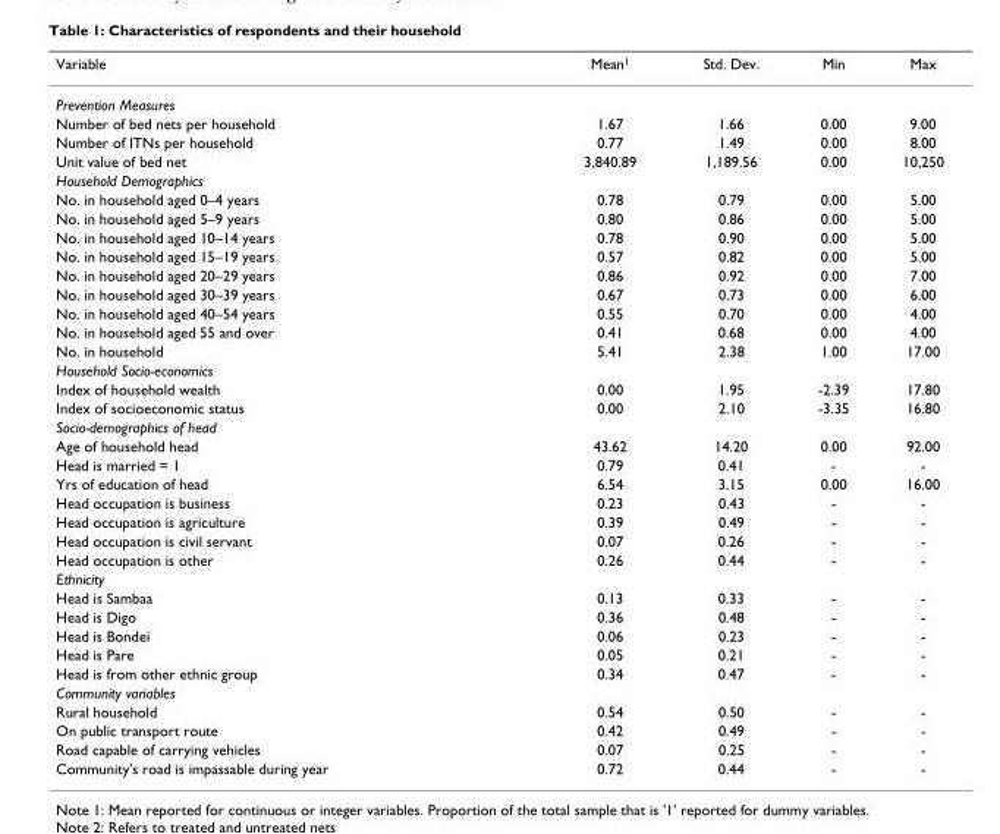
<table><thead><tr><td>Variable</td><td>Mean<sup>1</sup></td><td>Std. Dev.</td><td>Min</td><td>Max</td></tr></thead><tbody><tr><td colspan="5">Prevention Measures</td></tr><tr><td>Number of bed nets per household</td><td>1.67</td><td>1.66</td><td>0.00</td><td>9.00</td></tr><tr><td>Number of ITNs per household</td><td>0.77</td><td>1.49</td><td>0.00</td><td>8.00</td></tr><tr><td>Unit value of bed net</td><td>3,840.89</td><td>1,189.56</td><td>0.00</td><td>10,250</td></tr><tr><td colspan="5">Household Demographics</td></tr><tr><td>No. in household aged 0–4 years</td><td>0.78</td><td>0.79</td><td>0.00</td><td>5.00</td></tr><tr><td>No. in household aged 5–9 years</td><td>0.80</td><td>0.86</td><td>0.00</td><td>5.00</td></tr><tr><td>No. in household aged 10–14 years</td><td>0.78</td><td>0.90</td><td>0.00</td><td>5.00</td></tr><tr><td>No. in household aged 15–19 years</td><td>0.57</td><td>0.82</td><td>0.00</td><td>5.00</td></tr><tr><td>No. in household aged 20–29 years</td><td>0.86</td><td>0.92</td><td>0.00</td><td>7.00</td></tr><tr><td>No. in household aged 30–39 years</td><td>0.67</td><td>0.73</td><td>0.00</td><td>6.00</td></tr><tr><td>No. in household aged 40–54 years</td><td>0.55</td><td>0.70</td><td>0.00</td><td>4.00</td></tr><tr><td>No. in household aged 55 and over</td><td>0.41</td><td>0.68</td><td>0.00</td><td>4.00</td></tr><tr><td>No. in household</td><td>5.41</td><td>2.38</td><td>1.00</td><td>17.00</td></tr><tr><td colspan="5">Household Socio-economics</td></tr><tr><td>Index of household wealth</td><td>0.00</td><td>1.95</td><td>-2.39</td><td>17.80</td></tr><tr><td>Index of socioeconomic status</td><td>0.00</td><td>2.10</td><td>-3.35</td><td>16.80</td></tr><tr><td colspan="5">Socio-demographics of head</td></tr><tr><td>Age of household head</td><td>43.62</td><td>14.20</td><td>0.00</td><td>92.00</td></tr><tr><td>Head is married = 1</td><td>0.79</td><td>0.41</td><td>-</td><td>-</td></tr><tr><td>Yrs of education of head</td><td>6.54</td><td>3.15</td><td>0.00</td><td>16.00</td></tr><tr><td>Head occupation is business</td><td>0.23</td><td>0.43</td><td>-</td><td>-</td></tr><tr><td>Head occupation is agriculture</td><td>0.39</td><td>0.49</td><td>-</td><td>-</td></tr><tr><td>Head occupation is civil servant</td><td>0.07</td><td>0.26</td><td>-</td><td>-</td></tr><tr><td>Head occupation is other</td><td>0.26</td><td>0.44</td><td>-</td><td>-</td></tr><tr><td colspan="5">Ethnicity</td></tr><tr><td>Head is Sambaa</td><td>0.13</td><td>0.33</td><td>-</td><td>-</td></tr><tr><td>Head is Digo</td><td>0.36</td><td>0.48</td><td>-</td><td>-</td></tr><tr><td>Head is Bondei</td><td>0.06</td><td>0.23</td><td>-</td><td>-</td></tr><tr><td>Head is Pare</td><td>0.05</td><td>0.21</td><td>-</td><td>-</td></tr><tr><td>Head is from other ethnic group</td><td>0.34</td><td>0.47</td><td>-</td><td>-</td></tr><tr><td colspan="5">Community variables</td></tr><tr><td>Rural household</td><td>0.54</td><td>0.50</td><td>-</td><td>-</td></tr><tr><td>On public transport route</td><td>0.42</td><td>0.49</td><td>-</td><td>-</td></tr><tr><td>Road capable of carrying vehicles</td><td>0.07</td><td>0.25</td><td>-</td><td>-</td></tr><tr><td>Community&#x27;s road is impassable during year</td><td>0.72</td><td>0.44</td><td>-</td><td>-</td></tr></tbody></table>